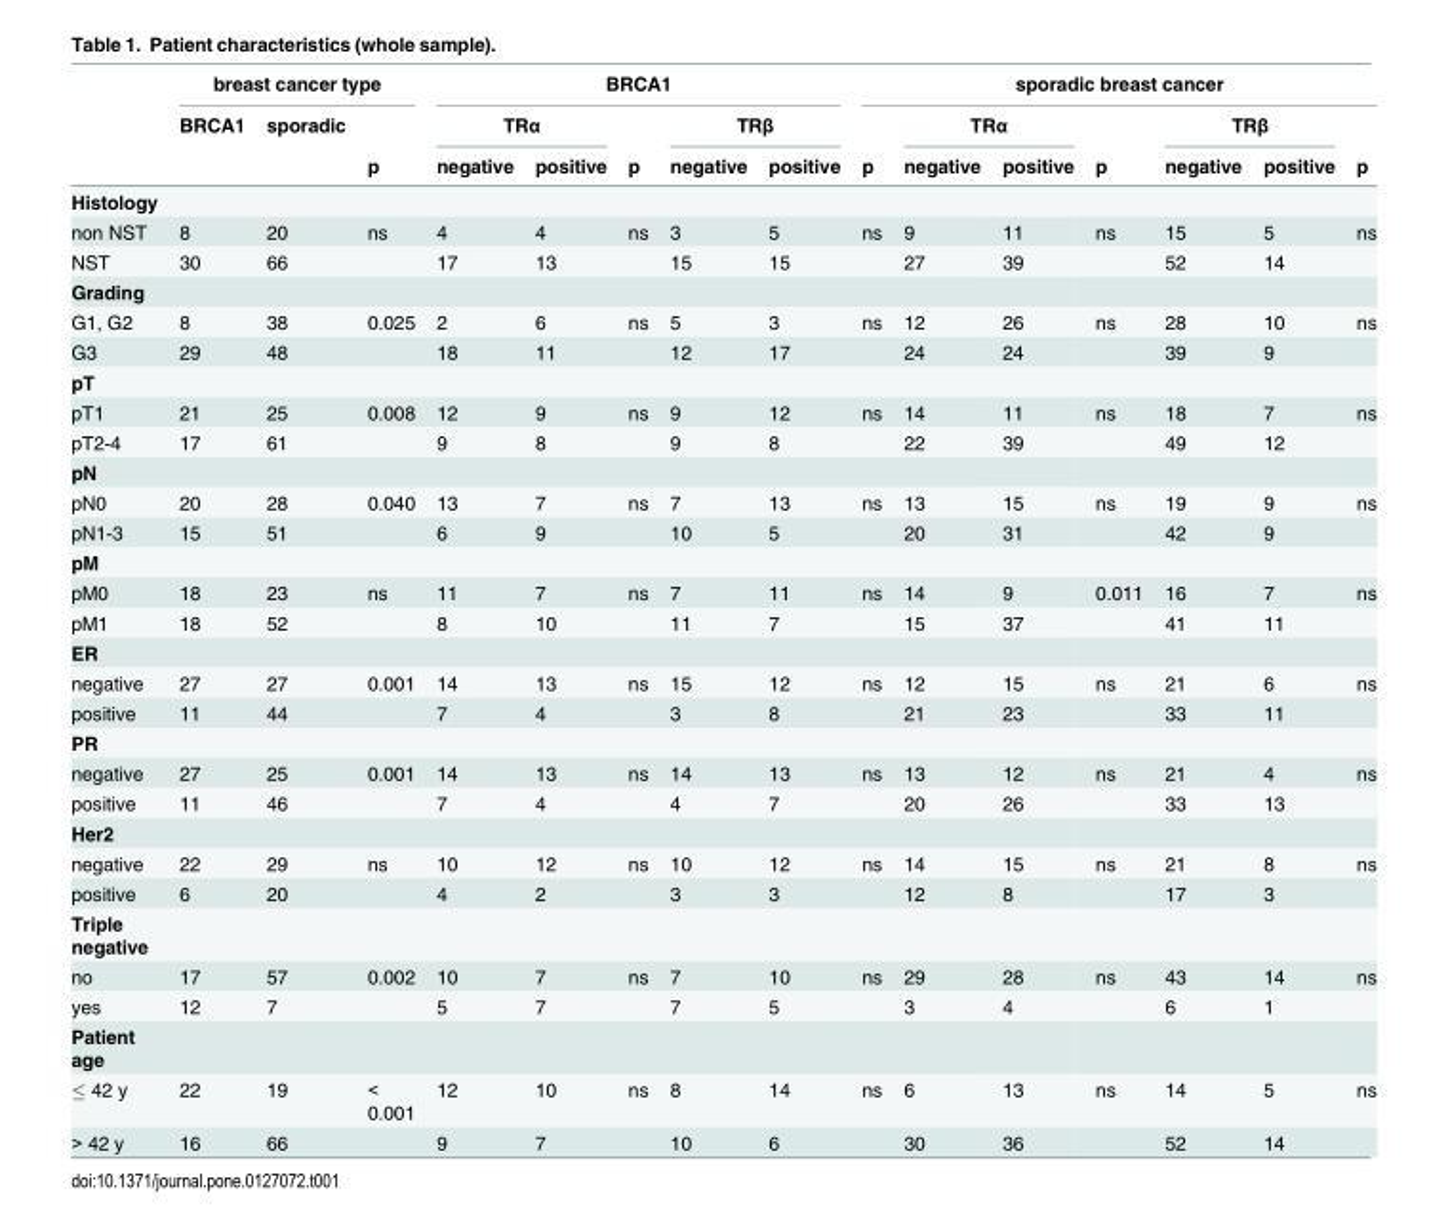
<table><thead><tr><td rowspan="3"></td><td colspan="3">breast cancer type</td><td colspan="5">BRCA1</td><td colspan="7">sporadic breast cancer</td></tr><tr><td rowspan="2">BRCA1</td><td rowspan="2">sporadic</td><td rowspan="2">p</td><td colspan="2">TRα</td><td rowspan="2">p</td><td colspan="2">TRβ</td><td rowspan="2">p</td><td colspan="2">TRα</td><td rowspan="2">p</td><td colspan="2">TRβ</td><td rowspan="2">p</td></tr><tr><td>negative</td><td>positive</td><td>negative</td><td>positive</td><td>negative</td><td>positive</td><td>negative</td><td>positive</td></tr></thead><tbody><tr><td colspan="16">Histology</td></tr><tr><td>non NST</td><td>8</td><td>20</td><td>ns</td><td>4</td><td>4</td><td>ns</td><td>3</td><td>5</td><td>ns</td><td>9</td><td>11</td><td>ns</td><td>15</td><td>5</td><td>ns</td></tr><tr><td>NST</td><td>30</td><td>66</td><td></td><td>17</td><td>13</td><td></td><td>15</td><td>15</td><td></td><td>27</td><td>39</td><td></td><td>52</td><td>14</td><td></td></tr><tr><td colspan="16">Grading</td></tr><tr><td>G1, G2</td><td>8</td><td>38</td><td>0.025</td><td>2</td><td>6</td><td>ns</td><td>5</td><td>3</td><td>ns</td><td>12</td><td>26</td><td>ns</td><td>28</td><td>10</td><td>ns</td></tr><tr><td>G3</td><td>29</td><td>48</td><td></td><td>18</td><td>11</td><td></td><td>12</td><td>17</td><td></td><td>24</td><td>24</td><td></td><td>39</td><td>9</td><td></td></tr><tr><td colspan="16">pT</td></tr><tr><td>pT1</td><td>21</td><td>25</td><td>0.008</td><td>12</td><td>9</td><td>ns</td><td>9</td><td>12</td><td>ns</td><td>14</td><td>11</td><td>ns</td><td>18</td><td>7</td><td>ns</td></tr><tr><td>pT2-4</td><td>17</td><td>61</td><td></td><td>9</td><td>8</td><td></td><td>9</td><td>8</td><td></td><td>22</td><td>39</td><td></td><td>49</td><td>12</td><td></td></tr><tr><td colspan="16">pN</td></tr><tr><td>pN0</td><td>20</td><td>28</td><td>0.040</td><td>13</td><td>7</td><td>ns</td><td>7</td><td>13</td><td>ns</td><td>13</td><td>15</td><td>ns</td><td>19</td><td>9</td><td>ns</td></tr><tr><td>pN1-3</td><td>15</td><td>51</td><td></td><td>6</td><td>9</td><td></td><td>10</td><td>5</td><td></td><td>20</td><td>31</td><td></td><td>42</td><td>9</td><td></td></tr><tr><td colspan="16">pM</td></tr><tr><td>pM0</td><td>18</td><td>23</td><td>ns</td><td>11</td><td>7</td><td>ns</td><td>7</td><td>11</td><td>ns</td><td>14</td><td>9</td><td>0.011</td><td>16</td><td>7</td><td>ns</td></tr><tr><td>pM1</td><td>18</td><td>52</td><td></td><td>8</td><td>10</td><td></td><td>11</td><td>7</td><td></td><td>15</td><td>37</td><td></td><td>41</td><td>11</td><td></td></tr><tr><td colspan="16">ER</td></tr><tr><td>negative</td><td>27</td><td>27</td><td>0.001</td><td>14</td><td>13</td><td>ns</td><td>15</td><td>12</td><td>ns</td><td>12</td><td>15</td><td>ns</td><td>21</td><td>6</td><td>ns</td></tr><tr><td>positive</td><td>11</td><td>44</td><td></td><td>7</td><td>4</td><td></td><td>3</td><td>8</td><td></td><td>21</td><td>23</td><td></td><td>33</td><td>11</td><td></td></tr><tr><td colspan="16">PR</td></tr><tr><td>negative</td><td>27</td><td>25</td><td>0.001</td><td>14</td><td>13</td><td>ns</td><td>14</td><td>13</td><td>ns</td><td>13</td><td>12</td><td>ns</td><td>21</td><td>4</td><td>ns</td></tr><tr><td>positive</td><td>11</td><td>46</td><td></td><td>7</td><td>4</td><td></td><td>4</td><td>7</td><td></td><td>20</td><td>26</td><td></td><td>33</td><td>13</td><td></td></tr><tr><td colspan="16">Her2</td></tr><tr><td>negative</td><td>22</td><td>29</td><td>ns</td><td>10</td><td>12</td><td>ns</td><td>10</td><td>12</td><td>ns</td><td>14</td><td>15</td><td>ns</td><td>21</td><td>8</td><td>ns</td></tr><tr><td>positive</td><td>6</td><td>20</td><td></td><td>4</td><td>2</td><td></td><td>3</td><td>3</td><td></td><td>12</td><td>8</td><td></td><td>17</td><td>3</td><td></td></tr><tr><td colspan="16">Triple negative</td></tr><tr><td>no</td><td>17</td><td>57</td><td>0.002</td><td>10</td><td>7</td><td>ns</td><td>7</td><td>10</td><td>ns</td><td>29</td><td>28</td><td>ns</td><td>43</td><td>14</td><td>ns</td></tr><tr><td>yes</td><td>12</td><td>7</td><td></td><td>5</td><td>7</td><td></td><td>7</td><td>5</td><td></td><td>3</td><td>4</td><td></td><td>6</td><td>1</td><td></td></tr><tr><td colspan="16">Patient age</td></tr><tr><td>≤ 42 y</td><td>22</td><td>19</td><td>&lt; 0.001</td><td>12</td><td>10</td><td>ns</td><td>8</td><td>14</td><td>ns</td><td>6</td><td>13</td><td>ns</td><td>14</td><td>5</td><td>ns</td></tr><tr><td>&gt; 42 y</td><td>16</td><td>66</td><td></td><td>9</td><td>7</td><td></td><td>10</td><td>6</td><td></td><td>30</td><td>36</td><td></td><td>52</td><td>14</td><td></td></tr></tbody></table>